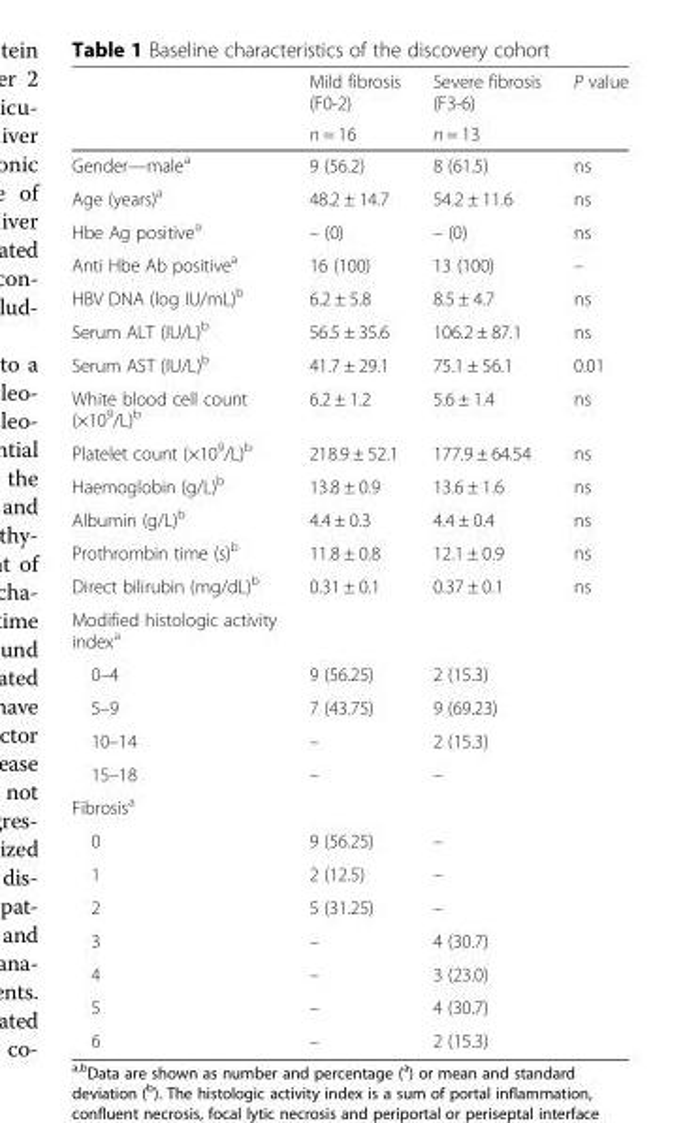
<table><thead><tr><td rowspan="2"></td><td rowspan="2">Mild fibrosis (F0-2) n = 16</td><td rowspan="2">Severe fibrosis (F3-6) n = 13</td><td rowspan="2">P value</td></tr><tr></tr></thead><tbody><tr><td>Gender—male<sup>a</sup></td><td>9 (56.2)</td><td>8 (61.5)</td><td>ns</td></tr><tr><td>Age (years)<sup>a</sup></td><td>48.2 ± 14.7</td><td>54.2 ± 11.6</td><td>ns</td></tr><tr><td>Hbe Ag positive<sup>a</sup></td><td>– (0)</td><td>– (0)</td><td>ns</td></tr><tr><td>Anti Hbe Ab positive<sup>a</sup></td><td>16 (100)</td><td>13 (100)</td><td>–</td></tr><tr><td>HBV DNA (log IU/mL)<sup>b</sup></td><td>6.2 ± 5.8</td><td>8.5 ± 4.7</td><td>ns</td></tr><tr><td>Serum ALT (IU/L)<sup>b</sup></td><td>56.5 ± 35.6</td><td>106.2 ± 87.1</td><td>ns</td></tr><tr><td>Serum AST (IU/L)<sup>b</sup></td><td>41.7 ± 29.1</td><td>75.1 ± 56.1</td><td>0.01</td></tr><tr><td>White blood cell count (×10<sup>9</sup>/L)<sup>b</sup></td><td>6.2 ± 1.2</td><td>5.6 ± 1.4</td><td>ns</td></tr><tr><td>Platelet count (×10<sup>9</sup>/L)<sup>b</sup></td><td>218.9 ± 52.1</td><td>177.9 ± 64.54</td><td>ns</td></tr><tr><td>Haemoglobin (g/L)<sup>b</sup></td><td>13.8 ± 0.9</td><td>13.6 ± 1.6</td><td>ns</td></tr><tr><td>Albumin (g/L)<sup>b</sup></td><td>4.4 ± 0.3</td><td>4.4 ± 0.4</td><td>ns</td></tr><tr><td>Prothrombin time (s)<sup>b</sup></td><td>11.8 ± 0.8</td><td>12.1 ± 0.9</td><td>ns</td></tr><tr><td>Direct bilirubin (mg/dL)<sup>b</sup></td><td>0.31 ± 0.1</td><td>0.37 ± 0.1</td><td>ns</td></tr><tr><td colspan="4">Modified histologic activity index<sup>a</sup></td></tr><tr><td>0–4</td><td>9 (56.25)</td><td>2 (15.3)</td><td></td></tr><tr><td>5–9</td><td>7 (43.75)</td><td>9 (69.23)</td><td></td></tr><tr><td>10–14</td><td>–</td><td>2 (15.3)</td><td></td></tr><tr><td>15–18</td><td>–</td><td>–</td><td></td></tr><tr><td colspan="4">Fibrosis<sup>a</sup></td></tr><tr><td>0</td><td>9 (56.25)</td><td>–</td><td></td></tr><tr><td>1</td><td>2 (12.5)</td><td>–</td><td></td></tr><tr><td>2</td><td>5 (31.25)</td><td>–</td><td></td></tr><tr><td>3</td><td>–</td><td>4 (30.7)</td><td></td></tr><tr><td>4</td><td>–</td><td>3 (23.0)</td><td></td></tr><tr><td>5</td><td>–</td><td>4 (30.7)</td><td></td></tr><tr><td>6</td><td>–</td><td>2 (15.3)</td><td></td></tr></tbody></table>